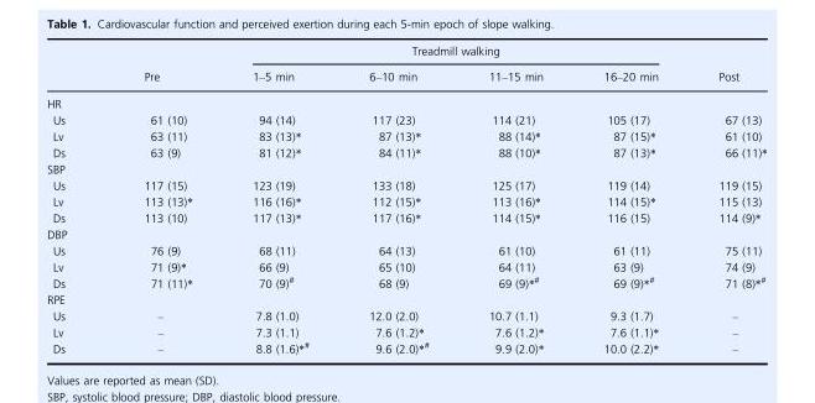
<table><thead><tr><td rowspan="2"></td><td rowspan="2">Pre</td><td colspan="4">Treadmill walking</td><td rowspan="2">Post</td></tr><tr><td>1–5 min</td><td>6–10 min</td><td>11–15 min</td><td>16–20 min</td></tr></thead><tbody><tr><td colspan="7">HR</td></tr><tr><td>Us</td><td>61 (10)</td><td>94 (14)</td><td>117 (23)</td><td>114 (21)</td><td>105 (17)</td><td>67 (13)</td></tr><tr><td>Lv</td><td>63 (11)</td><td>83 (13)*</td><td>87 (13)*</td><td>88 (14)*</td><td>87 (15)*</td><td>61 (10)</td></tr><tr><td>Ds</td><td>63 (9)</td><td>81 (12)*</td><td>84 (11)*</td><td>88 (10)*</td><td>87 (13)*</td><td>66 (11)*</td></tr><tr><td colspan="7">SBP</td></tr><tr><td>Us</td><td>117 (15)</td><td>123 (19)</td><td>133 (18)</td><td>125 (17)</td><td>119 (14)</td><td>119 (15)</td></tr><tr><td>Lv</td><td>113 (13)*</td><td>116 (16)*</td><td>112 (15)*</td><td>113 (16)*</td><td>114 (15)*</td><td>115 (13)</td></tr><tr><td>Ds</td><td>113 (10)</td><td>117 (13)*</td><td>117 (16)*</td><td>114 (15)*</td><td>116 (15)</td><td>114 (9)*</td></tr><tr><td colspan="7">DBP</td></tr><tr><td>Us</td><td>76 (9)</td><td>68 (11)</td><td>64 (13)</td><td>61 (10)</td><td>61 (11)</td><td>75 (11)</td></tr><tr><td>Lv</td><td>71 (9)*</td><td>66 (9)</td><td>65 (10)</td><td>64 (11)</td><td>63 (9)</td><td>74 (9)</td></tr><tr><td>Ds</td><td>71 (11)*</td><td>70 (9)#</td><td>68 (9)</td><td>69 (9)*#</td><td>69 (9)*#</td><td>71 (8)*#</td></tr><tr><td colspan="7">RPE</td></tr><tr><td>Us</td><td>–</td><td>7.8 (1.0)</td><td>12.0 (2.0)</td><td>10.7 (1.1)</td><td>9.3 (1.7)</td><td>–</td></tr><tr><td>Lv</td><td>–</td><td>7.3 (1.1)</td><td>7.6 (1.2)*</td><td>7.6 (1.2)*</td><td>7.6 (1.1)*</td><td>–</td></tr><tr><td>Ds</td><td>–</td><td>8.8 (1.6)*#</td><td>9.6 (2.0)*#</td><td>9.9 (2.0)*</td><td>10.0 (2.2)*</td><td>–</td></tr></tbody></table>